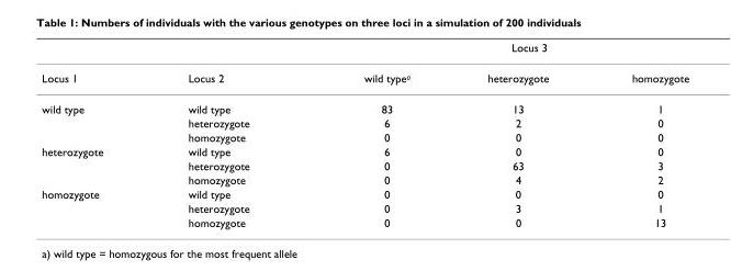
<table><thead><tr><td rowspan="2">Locus 1</td><td rowspan="2">Locus 2</td><td colspan="3">Locus 3</td></tr><tr><td>wild type<sup>a</sup></td><td>heterozygote</td><td>homozygote</td></tr></thead><tbody><tr><td rowspan="3">wild type</td><td>wild type</td><td>83</td><td>13</td><td>1</td></tr><tr><td>heterozygote</td><td>6</td><td>2</td><td>0</td></tr><tr><td>homozygote</td><td>0</td><td>0</td><td>0</td></tr><tr><td rowspan="3">heterozygote</td><td>wild type</td><td>6</td><td>0</td><td>0</td></tr><tr><td>heterozygote</td><td>0</td><td>63</td><td>3</td></tr><tr><td>homozygote</td><td>0</td><td>4</td><td>2</td></tr><tr><td rowspan="3">homozygote</td><td>wild type</td><td>0</td><td>0</td><td>0</td></tr><tr><td>heterozygote</td><td>0</td><td>3</td><td>1</td></tr><tr><td>homozygote</td><td>0</td><td>0</td><td>13</td></tr></tbody></table>